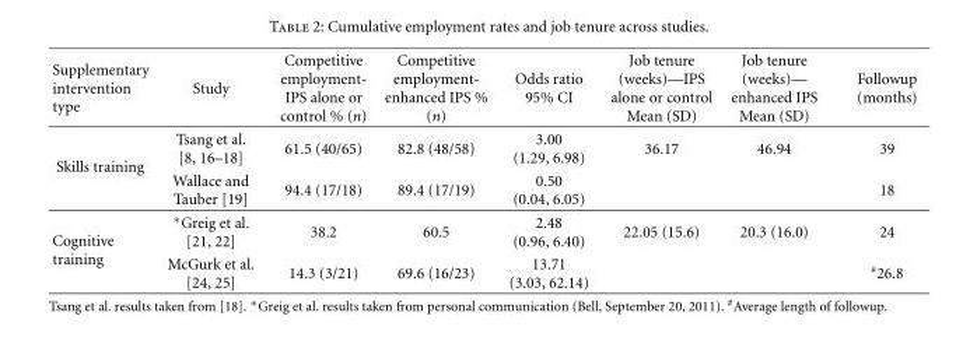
<table><thead><tr><td>Supplementary intervention type</td><td>Study</td><td>Competitive employment- IPS alone or control % (n)</td><td>Competitive employment- enhanced IPS % (n)</td><td>Odds ratio 95% CI</td><td>Job tenure (weeks)—IPS alone or control Mean (SD)</td><td>Job tenure (weeks)— enhanced IPS Mean (SD)</td><td>Followup (months)</td></tr></thead><tbody><tr><td rowspan="2">Skills training</td><td>Tsang et al. [8, 16–18]</td><td>61.5 (40/65)</td><td>82.8 (48/58)</td><td>3.00 (1.29, 6.98)</td><td>36.17</td><td>46.94</td><td>39</td></tr><tr><td>Wallace and Tauber [19]</td><td>94.4 (17/18)</td><td>89.4 (17/19)</td><td>0.50 (0.04, 6.05)</td><td></td><td></td><td>18</td></tr><tr><td rowspan="2">Cognitive training</td><td>∗Greig et al. [21, 22]</td><td>38.2</td><td>60.5</td><td>2.48 (0.96, 6.40)</td><td>22.05 (15.6)</td><td>20.3 (16.0)</td><td>24</td></tr><tr><td>McGurk et al. [24, 25]</td><td>14.3 (3/21)</td><td>69.6 (16/23)</td><td>13.71 (3.03, 62.14)</td><td></td><td></td><td><sup>#</sup>26.8</td></tr></tbody></table>